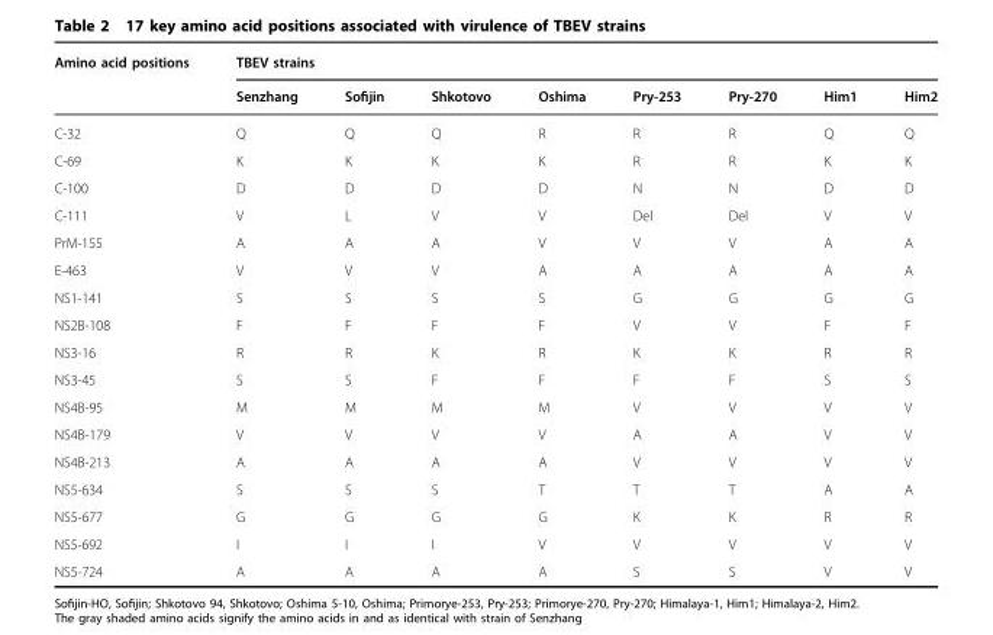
<table><thead><tr><td rowspan="2">Amino acid positions</td><td colspan="8">TBEV strains</td></tr><tr><td>Senzhang</td><td>Sofijin</td><td>Shkotovo</td><td>Oshima</td><td>Pry-253</td><td>Pry-270</td><td>Him1</td><td>Him2</td></tr></thead><tbody><tr><td>C-32</td><td>Q</td><td>Q</td><td>Q</td><td>R</td><td>R</td><td>R</td><td>Q</td><td>Q</td></tr><tr><td>C-69</td><td>K</td><td>K</td><td>K</td><td>K</td><td>R</td><td>R</td><td>K</td><td>K</td></tr><tr><td>C-100</td><td>D</td><td>D</td><td>D</td><td>D</td><td>N</td><td>N</td><td>D</td><td>D</td></tr><tr><td>C-111</td><td>V</td><td>L</td><td>V</td><td>V</td><td>Del</td><td>Del</td><td>V</td><td>V</td></tr><tr><td>PrM-155</td><td>A</td><td>A</td><td>A</td><td>V</td><td>V</td><td>V</td><td>A</td><td>A</td></tr><tr><td>E-463</td><td>V</td><td>V</td><td>V</td><td>A</td><td>A</td><td>A</td><td>A</td><td>A</td></tr><tr><td>NS1-141</td><td>S</td><td>S</td><td>S</td><td>S</td><td>G</td><td>G</td><td>G</td><td>G</td></tr><tr><td>NS2B-108</td><td>F</td><td>F</td><td>F</td><td>F</td><td>V</td><td>V</td><td>F</td><td>F</td></tr><tr><td>NS3-16</td><td>R</td><td>R</td><td>K</td><td>R</td><td>K</td><td>K</td><td>R</td><td>R</td></tr><tr><td>NS3-45</td><td>S</td><td>S</td><td>F</td><td>F</td><td>F</td><td>F</td><td>S</td><td>S</td></tr><tr><td>NS4B-95</td><td>M</td><td>M</td><td>M</td><td>M</td><td>V</td><td>V</td><td>V</td><td>V</td></tr><tr><td>NS4B-179</td><td>V</td><td>V</td><td>V</td><td>V</td><td>A</td><td>A</td><td>V</td><td>V</td></tr><tr><td>NS4B-213</td><td>A</td><td>A</td><td>A</td><td>A</td><td>V</td><td>V</td><td>V</td><td>V</td></tr><tr><td>NS5-634</td><td>S</td><td>S</td><td>S</td><td>T</td><td>T</td><td>T</td><td>A</td><td>A</td></tr><tr><td>NS5-677</td><td>G</td><td>G</td><td>G</td><td>G</td><td>K</td><td>K</td><td>R</td><td>R</td></tr><tr><td>NS5-692</td><td>I</td><td>I</td><td>I</td><td>V</td><td>V</td><td>V</td><td>V</td><td>V</td></tr><tr><td>NS5-724</td><td>A</td><td>A</td><td>A</td><td>A</td><td>S</td><td>S</td><td>V</td><td>V</td></tr></tbody></table>